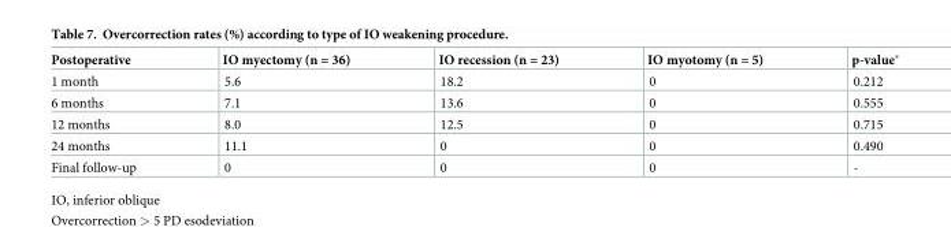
<table><thead><tr><td>Postoperative</td><td>IO myectomy (n = 36)</td><td>IO recession (n = 23)</td><td>IO myotomy (n = 5)</td><td>p-value*</td></tr></thead><tbody><tr><td>1 month</td><td>5.6</td><td>18.2</td><td>0</td><td>0.212</td></tr><tr><td>6 months</td><td>7.1</td><td>13.6</td><td>0</td><td>0.555</td></tr><tr><td>12 months</td><td>8.0</td><td>12.5</td><td>0</td><td>0.715</td></tr><tr><td>24 months</td><td>11.1</td><td>0</td><td>0</td><td>0.490</td></tr><tr><td>Final follow-up</td><td>0</td><td>0</td><td>0</td><td>-</td></tr></tbody></table>